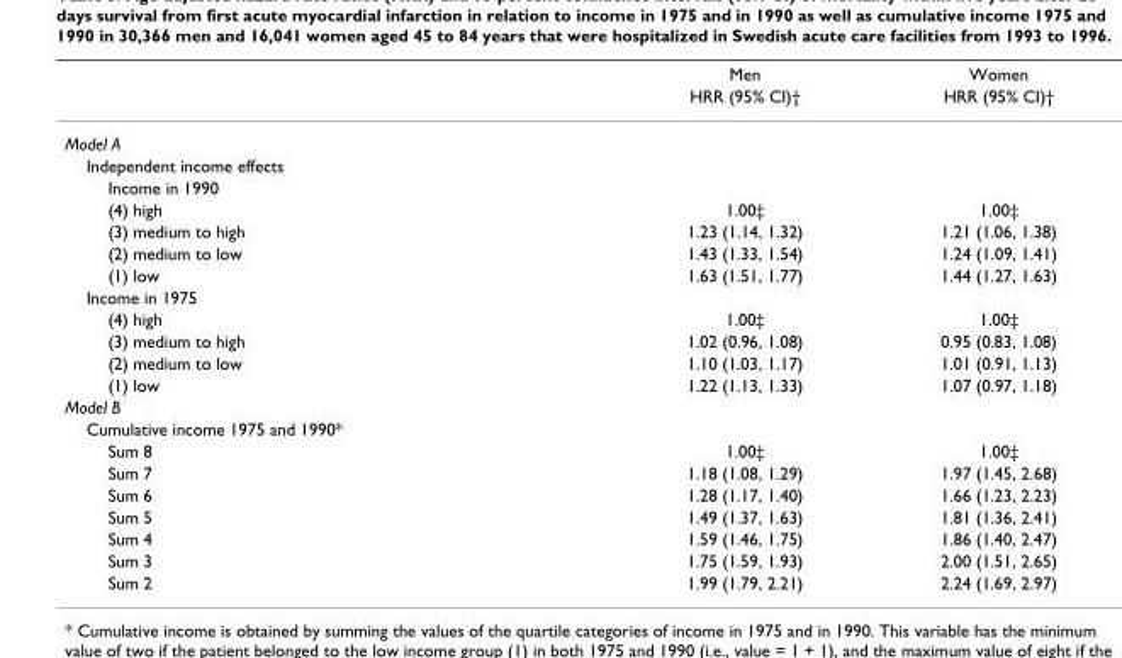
<table><thead><tr><td rowspan="2"></td><td rowspan="2">Men HRR (95% CI)†</td><td rowspan="2">Women HRR (95% CI)†</td></tr><tr></tr></thead><tbody><tr><td colspan="3">Model A</td></tr><tr><td colspan="3">Independent income effects</td></tr><tr><td colspan="3">Income in 1990</td></tr><tr><td>(4) high</td><td>1.00‡</td><td>1.00‡</td></tr><tr><td>(3) medium to high</td><td>1.23 (1.14, 1.32)</td><td>1.21 (1.06, 1.38)</td></tr><tr><td>(2) medium to low</td><td>1.43 (1.33, 1.54)</td><td>1.24 (1.09, 1.41)</td></tr><tr><td>(1) low</td><td>1.63 (1.51, 1.77)</td><td>1.44 (1.27, 1.63)</td></tr><tr><td colspan="3">Income in 1975</td></tr><tr><td>(4) high</td><td>1.00‡</td><td>1.00‡</td></tr><tr><td>(3) medium to high</td><td>1.02 (0.96, 1.08)</td><td>0.95 (0.83, 1.08)</td></tr><tr><td>(2) medium to low</td><td>1.10 (1.03, 1.17)</td><td>1.01 (0.91, 1.13)</td></tr><tr><td>(1) low</td><td>1.22 (1.13, 1.33)</td><td>1.07 (0.97, 1.18)</td></tr><tr><td colspan="3">Model B</td></tr><tr><td colspan="3">Cumulative income 1975 and 1990*</td></tr><tr><td>Sum 8</td><td>1.00‡</td><td>1.00‡</td></tr><tr><td>Sum 7</td><td>1.18 (1.08, 1.29)</td><td>1.97 (1.45, 2.68)</td></tr><tr><td>Sum 6</td><td>1.28 (1.17, 1.40)</td><td>1.66 (1.23, 2.23)</td></tr><tr><td>Sum 5</td><td>1.49 (1.37, 1.63)</td><td>1.81 (1.36, 2.41)</td></tr><tr><td>Sum 4</td><td>1.59 (1.46, 1.75)</td><td>1.86 (1.40, 2.47)</td></tr><tr><td>Sum 3</td><td>1.75 (1.59, 1.93)</td><td>2.00 (1.51, 2.65)</td></tr><tr><td>Sum 2</td><td>1.99 (1.79, 2.21)</td><td>2.24 (1.69, 2.97)</td></tr></tbody></table>